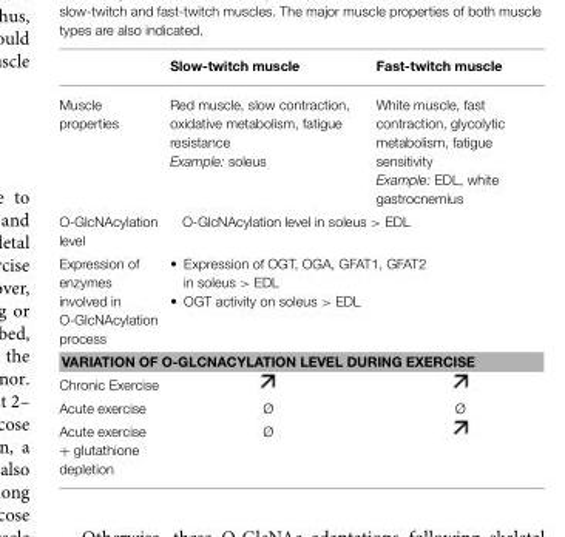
<table><thead><tr><td></td><td>Slow-twitch muscle</td><td>Fast-twitch muscle</td></tr></thead><tbody><tr><td>Muscle properties</td><td>Red muscle, slow contraction, oxidative metabolism, fatigue resistance Example: soleus</td><td>White muscle, fast contraction, glycolytic metabolism, fatigue sensitivity Example: EDL, white gastrocnemius</td></tr><tr><td>O-GlcNAcylation level</td><td colspan="2">O-GlcNAcylation level in soleus &gt; EDL</td></tr><tr><td>Expression of enzymes involved in O-GlcNAcylation process</td><td colspan="2">• Expression of OGT, OGA, GFAT1, GFAT2 in soleus &gt; EDL • OGT activity on soleus &gt; EDL</td></tr><tr><td colspan="3">VARIATION OF O-GLCNACYLATION LEVEL DURING EXERCISE</td></tr><tr><td colspan="3">Chronic Exercise</td></tr><tr><td>Acute exercise</td><td>Ø</td><td>Ø</td></tr><tr><td>Acute exercise + glutathione depletion</td><td>Ø</td><td></td></tr></tbody></table>